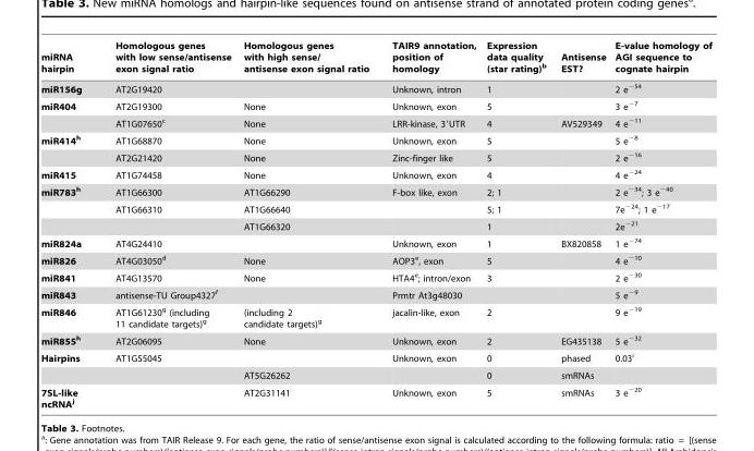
<table><thead><tr><td>miRNA hairpin</td><td>Homologous genes with low sense/antisense exon signal ratio</td><td>Homologous genes with high sense/ antisense exon signal ratio</td><td>TAIR9 annotation, position of homology</td><td>Expression data quality (star rating)<sup>b</sup></td><td>Antisense EST?</td><td>E-value homology of AGI sequence to cognate hairpin</td></tr></thead><tbody><tr><td>miR156g</td><td>AT2G19420</td><td></td><td>Unknown, intron</td><td>1</td><td></td><td>2 e<sup>−54</sup></td></tr><tr><td rowspan="2">miR404</td><td>AT2G19300</td><td>None</td><td>Unknown, exon</td><td>5</td><td></td><td>3 e<sup>−7</sup></td></tr><tr><td>AT1G07650<sup>c</sup></td><td>None</td><td>LRR-kinase, 3′UTR</td><td>4</td><td>AV529349</td><td>4 e<sup>−11</sup></td></tr><tr><td rowspan="2">miR414<sup>h</sup></td><td>AT1G68870</td><td>None</td><td>Unknown, exon</td><td>5</td><td></td><td>5 e<sup>−8</sup></td></tr><tr><td>AT2G21420</td><td>None</td><td>Zinc-finger like</td><td>5</td><td></td><td>2 e<sup>−16</sup></td></tr><tr><td>miR415</td><td>AT1G74458</td><td>None</td><td>Unknown, exon</td><td>4</td><td></td><td>4 e<sup>−24</sup></td></tr><tr><td rowspan="3">miR783<sup>h</sup></td><td>AT1G66300</td><td>AT1G66290</td><td>F-box like, exon</td><td>2; 1</td><td></td><td>2 e<sup>−34</sup>; 3 e<sup>−40</sup></td></tr><tr><td>AT1G66310</td><td>AT1G66640</td><td></td><td>5; 1</td><td></td><td>7e<sup>−24</sup>; 1 e<sup>−17</sup></td></tr><tr><td></td><td>AT1G66320</td><td></td><td>1</td><td></td><td>2e<sup>−21</sup></td></tr><tr><td>miR824a</td><td>AT4G24410</td><td></td><td>Unknown, exon</td><td>1</td><td>BX820858</td><td>1 e<sup>−74</sup></td></tr><tr><td>miR826</td><td>AT4G03050<sup>d</sup></td><td>None</td><td>AOP3<sup>e</sup>, exon</td><td>5</td><td></td><td>4 e<sup>−10</sup></td></tr><tr><td>miR841</td><td>AT4G13570</td><td>None</td><td>HTA4<sup>e</sup>; intron/exon</td><td>3</td><td></td><td>2 e<sup>−30</sup></td></tr><tr><td>miR843</td><td>antisense-TU Group4327<sup>f</sup></td><td></td><td>Prmtr At3g48030</td><td></td><td></td><td>5 e<sup>−9</sup></td></tr><tr><td>miR846</td><td>AT1G61230<sup>g</sup> (including 11 candidate targets)<sup>g</sup></td><td>(including 2 candidate targets)<sup>g</sup></td><td>jacalin-like, exon</td><td>2</td><td></td><td>9 e<sup>−19</sup></td></tr><tr><td>miR855<sup>h</sup></td><td>AT2G06095</td><td>None</td><td>Unknown, exon</td><td>2</td><td>EG435138</td><td>5 e<sup>−32</sup></td></tr><tr><td rowspan="2">Hairpins</td><td>AT1G55045</td><td></td><td>Unknown, exon</td><td>0</td><td>phased</td><td>0.03<sup>i</sup></td></tr><tr><td></td><td>AT5G26262</td><td></td><td>0</td><td>smRNAs</td><td></td></tr><tr><td>7SL-like ncRNA<sup>j</sup></td><td></td><td>AT2G31141</td><td>Unknown, exon</td><td>5</td><td>smRNAs</td><td>3 e<sup>−20</sup></td></tr></tbody></table>